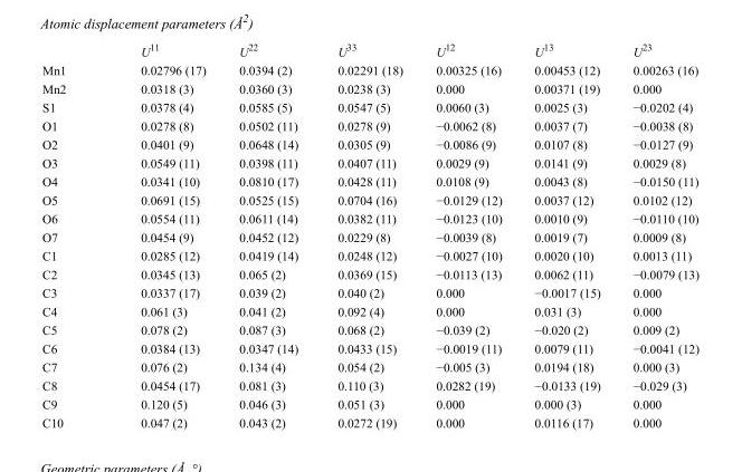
<table><thead><tr><td></td><td>U<sup>11</sup></td><td>U<sup>22</sup></td><td>U<sup>33</sup></td><td>U<sup>12</sup></td><td>U<sup>13</sup></td><td>U<sup>23</sup></td></tr></thead><tbody><tr><td>Mn1</td><td>0.02796 (17)</td><td>0.0394 (2)</td><td>0.02291 (18)</td><td>0.00325 (16)</td><td>0.00453 (12)</td><td>0.00263 (16)</td></tr><tr><td>Mn2</td><td>0.0318 (3)</td><td>0.0360 (3)</td><td>0.0238 (3)</td><td>0.000</td><td>0.00371 (19)</td><td>0.000</td></tr><tr><td>S1</td><td>0.0378 (4)</td><td>0.0585 (5)</td><td>0.0547 (5)</td><td>0.0060 (3)</td><td>0.0025 (3)</td><td>−0.0202 (4)</td></tr><tr><td>O1</td><td>0.0278 (8)</td><td>0.0502 (11)</td><td>0.0278 (9)</td><td>−0.0062 (8)</td><td>0.0037 (7)</td><td>−0.0038 (8)</td></tr><tr><td>O2</td><td>0.0401 (9)</td><td>0.0648 (14)</td><td>0.0305 (9)</td><td>−0.0086 (9)</td><td>0.0107 (8)</td><td>−0.0127 (9)</td></tr><tr><td>O3</td><td>0.0549 (11)</td><td>0.0398 (11)</td><td>0.0407 (11)</td><td>0.0029 (9)</td><td>0.0141 (9)</td><td>0.0029 (8)</td></tr><tr><td>O4</td><td>0.0341 (10)</td><td>0.0810 (17)</td><td>0.0428 (11)</td><td>0.0108 (9)</td><td>0.0043 (8)</td><td>−0.0150 (11)</td></tr><tr><td>O5</td><td>0.0691 (15)</td><td>0.0525 (15)</td><td>0.0704 (16)</td><td>−0.0129 (12)</td><td>0.0037 (12)</td><td>0.0102 (12)</td></tr><tr><td>O6</td><td>0.0554 (11)</td><td>0.0611 (14)</td><td>0.0382 (11)</td><td>−0.0123 (10)</td><td>0.0010 (9)</td><td>−0.0110 (10)</td></tr><tr><td>O7</td><td>0.0454 (9)</td><td>0.0452 (12)</td><td>0.0229 (8)</td><td>−0.0039 (8)</td><td>0.0019 (7)</td><td>0.0009 (8)</td></tr><tr><td>C1</td><td>0.0285 (12)</td><td>0.0419 (14)</td><td>0.0248 (12)</td><td>−0.0027 (10)</td><td>0.0020 (10)</td><td>0.0013 (11)</td></tr><tr><td>C2</td><td>0.0345 (13)</td><td>0.065 (2)</td><td>0.0369 (15)</td><td>−0.0113 (13)</td><td>0.0062 (11)</td><td>−0.0079 (13)</td></tr><tr><td>C3</td><td>0.0337 (17)</td><td>0.039 (2)</td><td>0.040 (2)</td><td>0.000</td><td>−0.0017 (15)</td><td>0.000</td></tr><tr><td>C4</td><td>0.061 (3)</td><td>0.041 (2)</td><td>0.092 (4)</td><td>0.000</td><td>0.031 (3)</td><td>0.000</td></tr><tr><td>C5</td><td>0.078 (2)</td><td>0.087 (3)</td><td>0.068 (2)</td><td>−0.039 (2)</td><td>−0.020 (2)</td><td>0.009 (2)</td></tr><tr><td>C6</td><td>0.0384 (13)</td><td>0.0347 (14)</td><td>0.0433 (15)</td><td>−0.0019 (11)</td><td>0.0079 (11)</td><td>−0.0041 (12)</td></tr><tr><td>C7</td><td>0.076 (2)</td><td>0.134 (4)</td><td>0.054 (2)</td><td>−0.005 (3)</td><td>0.0194 (18)</td><td>0.000 (3)</td></tr><tr><td>C8</td><td>0.0454 (17)</td><td>0.081 (3)</td><td>0.110 (3)</td><td>0.0282 (19)</td><td>−0.0133 (19)</td><td>−0.029 (3)</td></tr><tr><td>C9</td><td>0.120 (5)</td><td>0.046 (3)</td><td>0.051 (3)</td><td>0.000</td><td>0.000 (3)</td><td>0.000</td></tr><tr><td>C10</td><td>0.047 (2)</td><td>0.043 (2)</td><td>0.0272 (19)</td><td>0.000</td><td>0.0116 (17)</td><td>0.000</td></tr></tbody></table>